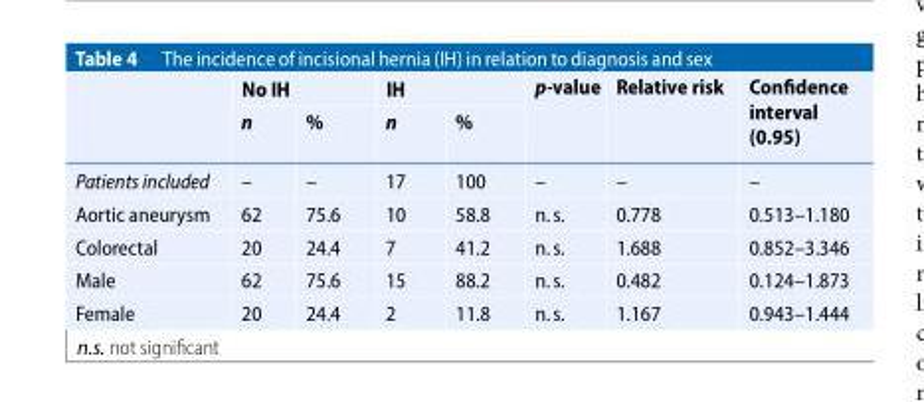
<table><thead><tr><td rowspan="2"></td><td colspan="2">No IH</td><td colspan="2">IH</td><td rowspan="2">p-value</td><td rowspan="2">Relative risk</td><td rowspan="2">Confidence interval (0.95)</td></tr><tr><td>n</td><td>%</td><td>n</td><td>%</td></tr></thead><tbody><tr><td>Patients included</td><td>–</td><td>–</td><td>17</td><td>100</td><td>–</td><td>–</td><td>–</td></tr><tr><td>Aortic aneurysm</td><td>62</td><td>75.6</td><td>10</td><td>58.8</td><td>n.s.</td><td>0.778</td><td>0.513–1.180</td></tr><tr><td>Colorectal</td><td>20</td><td>24.4</td><td>7</td><td>41.2</td><td>n.s.</td><td>1.688</td><td>0.852–3.346</td></tr><tr><td>Male</td><td>62</td><td>75.6</td><td>15</td><td>88.2</td><td>n.s.</td><td>0.482</td><td>0.124–1.873</td></tr><tr><td>Female</td><td>20</td><td>24.4</td><td>2</td><td>11.8</td><td>n.s.</td><td>1.167</td><td>0.943–1.444</td></tr></tbody></table>